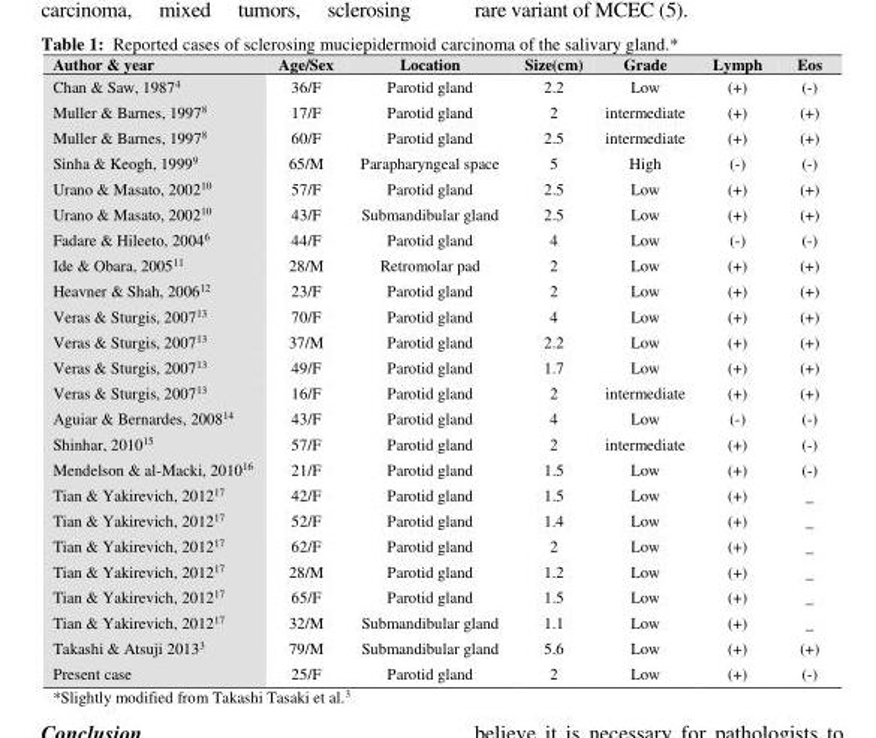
<table><thead><tr><td>Author &amp; year</td><td>Age/Sex</td><td>Location</td><td>Size(cm)</td><td>Grade</td><td>Lymph</td><td>Eos</td></tr></thead><tbody><tr><td>Chan &amp; Saw, 1987<sup>4</sup></td><td>36/F</td><td>Parotid gland</td><td>2.2</td><td>Low</td><td>(+)</td><td>(-)</td></tr><tr><td>Muller &amp; Barnes, 1997<sup>8</sup></td><td>17/F</td><td>Parotid gland</td><td>2</td><td>intermediate</td><td>(+)</td><td>(+)</td></tr><tr><td>Muller &amp; Barnes, 1997<sup>8</sup></td><td>60/F</td><td>Parotid gland</td><td>2.5</td><td>intermediate</td><td>(+)</td><td>(+)</td></tr><tr><td>Sinha &amp; Keogh, 1999<sup>9</sup></td><td>65/M</td><td>Parapharyngeal space</td><td>5</td><td>High</td><td>(-)</td><td>(-)</td></tr><tr><td>Urano &amp; Masato, 2002<sup>10</sup></td><td>57/F</td><td>Parotid gland</td><td>2.5</td><td>Low</td><td>(+)</td><td>(+)</td></tr><tr><td>Urano &amp; Masato, 2002<sup>10</sup></td><td>43/F</td><td>Submandibular gland</td><td>2.5</td><td>Low</td><td>(+)</td><td>(+)</td></tr><tr><td>Fadare &amp; Hileeto, 2004<sup>6</sup></td><td>44/F</td><td>Parotid gland</td><td>4</td><td>Low</td><td>(-)</td><td>(-)</td></tr><tr><td>Ide &amp; Obara, 2005<sup>11</sup></td><td>28/M</td><td>Retromolar pad</td><td>2</td><td>Low</td><td>(+)</td><td>(+)</td></tr><tr><td>Heavner &amp; Shah, 2006<sup>12</sup></td><td>23/F</td><td>Parotid gland</td><td>2</td><td>Low</td><td>(+)</td><td>(+)</td></tr><tr><td>Veras &amp; Sturgis, 2007<sup>13</sup></td><td>70/F</td><td>Parotid gland</td><td>4</td><td>Low</td><td>(+)</td><td>(+)</td></tr><tr><td>Veras &amp; Sturgis, 2007<sup>13</sup></td><td>37/M</td><td>Parotid gland</td><td>2.2</td><td>Low</td><td>(+)</td><td>(+)</td></tr><tr><td>Veras &amp; Sturgis, 2007<sup>13</sup></td><td>49/F</td><td>Parotid gland</td><td>1.7</td><td>Low</td><td>(+)</td><td>(+)</td></tr><tr><td>Veras &amp; Sturgis, 2007<sup>13</sup></td><td>16/F</td><td>Parotid gland</td><td>2</td><td>intermediate</td><td>(+)</td><td>(+)</td></tr><tr><td>Aguiar &amp; Bernardes, 2008<sup>14</sup></td><td>43/F</td><td>Parotid gland</td><td>4</td><td>Low</td><td>(-)</td><td>(-)</td></tr><tr><td>Shinhar, 2010<sup>15</sup></td><td>57/F</td><td>Parotid gland</td><td>2</td><td>intermediate</td><td>(+)</td><td>(-)</td></tr><tr><td>Mendelson &amp; al-Macki, 2010<sup>16</sup></td><td>21/F</td><td>Parotid gland</td><td>1.5</td><td>Low</td><td>(+)</td><td>(-)</td></tr><tr><td>Tian &amp; Yakirevich, 2012<sup>17</sup></td><td>42/F</td><td>Parotid gland</td><td>1.5</td><td>Low</td><td>(+)</td><td>_</td></tr><tr><td>Tian &amp; Yakirevich, 2012<sup>17</sup></td><td>52/F</td><td>Parotid gland</td><td>1.4</td><td>Low</td><td>(+)</td><td>_</td></tr><tr><td>Tian &amp; Yakirevich, 2012<sup>17</sup></td><td>62/F</td><td>Parotid gland</td><td>2</td><td>Low</td><td>(+)</td><td>_</td></tr><tr><td>Tian &amp; Yakirevich, 2012<sup>17</sup></td><td>28/M</td><td>Parotid gland</td><td>1.2</td><td>Low</td><td>(+)</td><td>_</td></tr><tr><td>Tian &amp; Yakirevich, 2012<sup>17</sup></td><td>65/F</td><td>Parotid gland</td><td>1.5</td><td>Low</td><td>(+)</td><td>_</td></tr><tr><td>Tian &amp; Yakirevich, 2012<sup>17</sup></td><td>32/M</td><td>Submandibular gland</td><td>1.1</td><td>Low</td><td>(+)</td><td>_</td></tr><tr><td>Takashi &amp; Atsuji 2013<sup>3</sup></td><td>79/M</td><td>Submandibular gland</td><td>5.6</td><td>Low</td><td>(+)</td><td>(+)</td></tr><tr><td>Present case</td><td>25/F</td><td>Parotid gland</td><td>2</td><td>Low</td><td>(+)</td><td>(-)</td></tr></tbody></table>